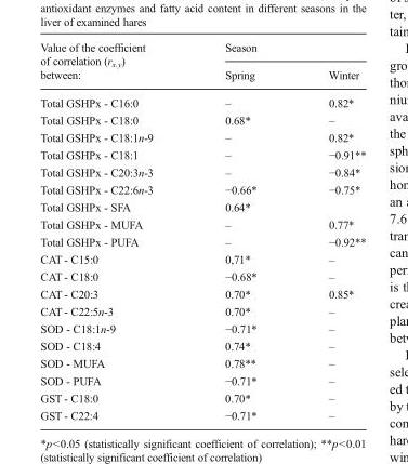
<table><thead><tr><td rowspan="2">Value of the coefficient of correlation (r<sub>x.y</sub>) between:</td><td colspan="2">Season</td></tr><tr><td>Spring</td><td>Winter</td></tr></thead><tbody><tr><td>Total GSHPx - C16:0</td><td>–</td><td>0.82*</td></tr><tr><td>Total GSHPx - C18:0</td><td>0.68*</td><td>–</td></tr><tr><td>Total GSHPx - C18:1n-9</td><td>–</td><td>0.82*</td></tr><tr><td>Total GSHPx - C18:1</td><td>–</td><td>−0.91**</td></tr><tr><td>Total GSHPx - C20:3n-3</td><td>–</td><td>−0.84*</td></tr><tr><td>Total GSHPx - C22:6n-3</td><td>−0.66*</td><td>−0.75*</td></tr><tr><td>Total GSHPx - SFA</td><td>0.64*</td><td></td></tr><tr><td>Total GSHPx - MUFA</td><td>–</td><td>0.77*</td></tr><tr><td>Total GSHPx - PUFA</td><td>–</td><td>−0.92**</td></tr><tr><td>CAT - C15:0</td><td>0,71*</td><td>–</td></tr><tr><td>CAT - C18:0</td><td>−0.68*</td><td>–</td></tr><tr><td>CAT - C20:3</td><td>0.70*</td><td>0.85*</td></tr><tr><td>CAT - C22:5n-3</td><td>0.70*</td><td>–</td></tr><tr><td>SOD - C18:1n-9</td><td>−0.71*</td><td>–</td></tr><tr><td>SOD - C18:4</td><td>0.74*</td><td>–</td></tr><tr><td>SOD - MUFA</td><td>0.78**</td><td>–</td></tr><tr><td>SOD - PUFA</td><td>−0.71*</td><td>–</td></tr><tr><td>GST - C18:0</td><td>0.70*</td><td>–</td></tr><tr><td>GST - C22:4</td><td>−0.71*</td><td>–</td></tr></tbody></table>